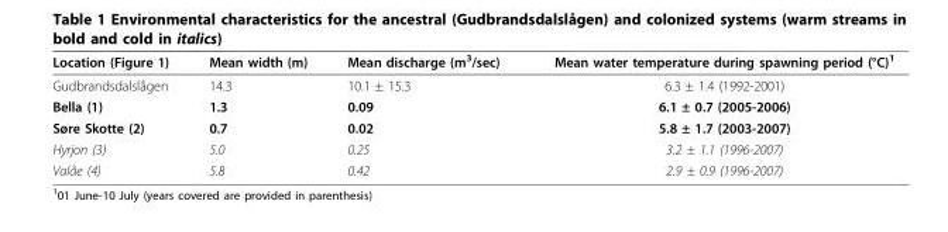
<table><thead><tr><td>Location (Figure 1)</td><td>Mean width (m)</td><td>Mean discharge (m<sup>3</sup>/sec)</td><td>Mean water temperature during spawning period (°C)<sup>1</sup></td></tr></thead><tbody><tr><td>Gudbrandsdalslågen</td><td>14.3</td><td>10.1 ± 15.3</td><td>6.3 ± 1.4 (1992-2001)</td></tr><tr><td>Bella (1)</td><td>1.3</td><td>0.09</td><td>6.1 ± 0.7 (2005-2006)</td></tr><tr><td>Søre Skotte (2)</td><td>0.7</td><td>0.02</td><td>5.8 ± 1.7 (2003-2007)</td></tr><tr><td>Hyrjon (3)</td><td>5.0</td><td>0.25</td><td>3.2 ± 1.1 (1996-2007)</td></tr><tr><td>Valåe (4)</td><td>5.8</td><td>0.42</td><td>2.9 ± 0.9 (1996-2007)</td></tr></tbody></table>